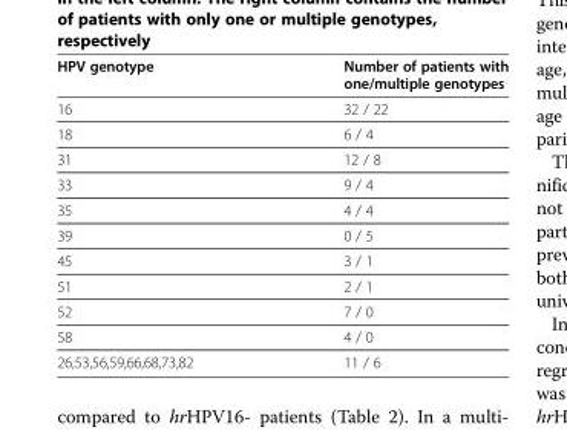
<table><thead><tr><td>HPV genotype</td><td>Number of patients with one/multiple genotypes</td></tr></thead><tbody><tr><td>16</td><td>32 / 22</td></tr><tr><td>18</td><td>6 / 4</td></tr><tr><td>31</td><td>12 / 8</td></tr><tr><td>33</td><td>9 / 4</td></tr><tr><td>35</td><td>4 / 4</td></tr><tr><td>39</td><td>0 / 5</td></tr><tr><td>45</td><td>3 / 1</td></tr><tr><td>51</td><td>2 / 1</td></tr><tr><td>52</td><td>7 / 0</td></tr><tr><td>58</td><td>4 / 0</td></tr><tr><td>26,53,56,59,66,68,73,82</td><td>11 / 6</td></tr></tbody></table>